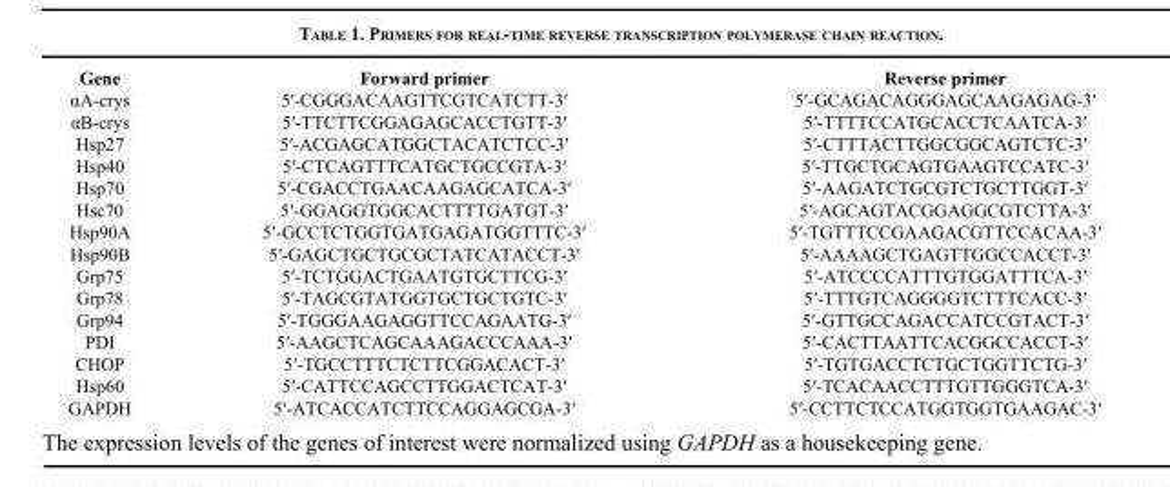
<table><tbody><tr><td>Gene</td><td>Forward primer</td><td>Reverse primer</td></tr><tr><td>αA-crys</td><td>5′-CGGGACAAGTTCGTCATCTT-3′</td><td>5′-GCAGACAGGGAGCAAGAGAG-3′</td></tr><tr><td>αB-crys</td><td>5′-TTCTTCGGAGAGCACCTGTT-3′</td><td>5′-TTTTCCATGCACCTCAATCA-3′</td></tr><tr><td>Hsp27</td><td>5′-ACGAGCATGGCTACATCTCC-3′</td><td>5′-CTTTACTTGGCGGCAGTCTC-3′</td></tr><tr><td>Hsp40</td><td>5′-CTCAGTTTCATGCTGCCGTA-3′</td><td>5′-TTGCTGCAGTGAAGTCCATC-3′</td></tr><tr><td>Hsp70</td><td>5′-CGACCTGAACAAGAGCATCA-3′</td><td>5′-AAGATCTGCGTCTGCTTGGT-3′</td></tr><tr><td>Hsc70</td><td>5′-GGAGGTGGCACTTTTGATGT-3′</td><td>5′-AGCAGTACGGAGGCGTCTTA-3′</td></tr><tr><td>Hsp90A</td><td>5′-GCCTCTGGTGATGAGATGGTTTC-3′</td><td>5′-TGTTTCCGAAGACGTTCCACAA-3′</td></tr><tr><td>Hsp90B</td><td>5′-GAGCTGCTGCGCTATCATACCT-3′</td><td>5′-AAAAGCTGAGTTGGCCACCT-3′</td></tr><tr><td>Grp75</td><td>5′-TCTGGACTGAATGTGCTTCG-3′</td><td>5′-ATCCCCATTTGTGGATTTCA-3′</td></tr><tr><td>Grp78</td><td>5′-TAGCGTATGGTGCTGCTGTC-3′</td><td>5′-TTTGTCAGGGGTCTTTCACC-3′</td></tr><tr><td>Grp94</td><td>5′-TGGGAAGAGGTTCCAGAATG-3′</td><td>5′-GTTGCCAGACCATCCGTACT-3′</td></tr><tr><td>PDI</td><td>5′-AAGCTCAGCAAAGACCCAAA-3′</td><td>5′-CACTTAATTCACGGCCACCT-3′</td></tr><tr><td>CHOP</td><td>5′-TGCCTTTCTCTTCGGACACT-3′</td><td>5′-TGTGACCTCTGCTGGTTCTG-3′</td></tr><tr><td>Hsp60</td><td>5′-CATTCCAGCCTTGGACTCAT-3′</td><td>5′-TCACAACCTTTGTTGGGTCA-3′</td></tr><tr><td>GAPDH</td><td>5′-ATCACCATCTTCCAGGAGCGA-3′</td><td>5′-CCTTCTCCATGGTGGTGAAGAC-3′</td></tr></tbody></table>